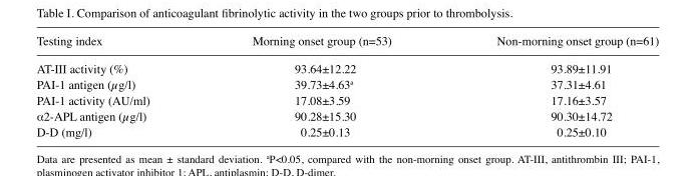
<table><thead><tr><td>Testing index</td><td>Morning onset group (n=53)</td><td>Non-morning onset group (n=61)</td></tr></thead><tbody><tr><td>AT-III activity (%)</td><td>93.64±12.22</td><td>93.89±11.91</td></tr><tr><td>PAI-1 antigen (µg/l)</td><td>39.73±4.63<sup>a</sup></td><td>37.31±4.61</td></tr><tr><td>PAI-1 activity (AU/ml)</td><td>17.08±3.59</td><td>17.16±3.57</td></tr><tr><td>α2-APL antigen (µg/l)</td><td>90.28±15.30</td><td>90.30±14.72</td></tr><tr><td>D-D (mg/l)</td><td>0.25±0.13</td><td>0.25±0.10</td></tr></tbody></table>